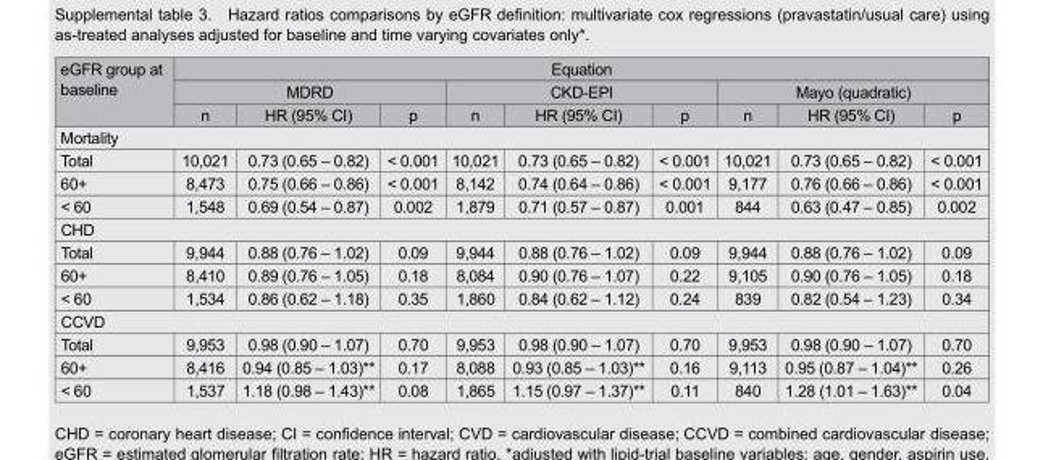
<table><thead><tr><td rowspan="3">eGFR group at baseline</td><td colspan="9">Equation</td></tr><tr><td colspan="3">MDRD</td><td colspan="3">CKD-EPI</td><td colspan="3">Mayo (quadratic)</td></tr><tr><td>n</td><td>HR (95% CI)</td><td>p</td><td>n</td><td>HR (95% CI)</td><td>p</td><td>n</td><td>HR (95% CI)</td><td>p</td></tr></thead><tbody><tr><td colspan="10">Mortality</td></tr><tr><td>Total</td><td>10,021</td><td>0.73 (0.65 – 0.82)</td><td>&lt; 0.001</td><td>10,021</td><td>0.73 (0.65 – 0.82)</td><td>&lt; 0.001</td><td>10,021</td><td>0.73 (0.65 – 0.82)</td><td>&lt; 0.001</td></tr><tr><td>60+</td><td>8,473</td><td>0.75 (0.66 – 0.86)</td><td>&lt; 0.001</td><td>8,142</td><td>0.74 (0.64 – 0.86)</td><td>&lt; 0.001</td><td>9,177</td><td>0.76 (0.66 – 0.86)</td><td>&lt; 0.001</td></tr><tr><td>&lt; 60</td><td>1,548</td><td>0.69 (0.54 – 0.87)</td><td>0.002</td><td>1,879</td><td>0.71 (0.57 – 0.87)</td><td>0.001</td><td>844</td><td>0.63 (0.47 – 0.85)</td><td>0.002</td></tr><tr><td colspan="10">CHD</td></tr><tr><td>Total</td><td>9,944</td><td>0.88 (0.76 – 1.02)</td><td>0.09</td><td>9,944</td><td>0.88 (0.76 – 1.02)</td><td>0.09</td><td>9,944</td><td>0.88 (0.76 – 1.02)</td><td>0.09</td></tr><tr><td>60+</td><td>8,410</td><td>0.89 (0.76 – 1.05)</td><td>0.18</td><td>8,084</td><td>0.90 (0.76 – 1.07)</td><td>0.22</td><td>9,105</td><td>0.90 (0.76 – 1.05)</td><td>0.18</td></tr><tr><td>&lt; 60</td><td>1,534</td><td>0.86 (0.62 – 1.18)</td><td>0.35</td><td>1,860</td><td>0.84 (0.62 – 1.12)</td><td>0.24</td><td>839</td><td>0.82 (0.54 – 1.23)</td><td>0.34</td></tr><tr><td colspan="10">CCVD</td></tr><tr><td>Total</td><td>9,953</td><td>0.98 (0.90 – 1.07)</td><td>0.70</td><td>9,953</td><td>0.98 (0.90 – 1.07)</td><td>0.70</td><td>9,953</td><td>0.98 (0.90 – 1.07)</td><td>0.70</td></tr><tr><td>60+</td><td>8,416</td><td>0.94 (0.85 – 1.03)**</td><td>0.17</td><td>8,088</td><td>0.93 (0.85 – 1.03)**</td><td>0.16</td><td>9,113</td><td>0.95 (0.87 – 1.04)**</td><td>0.26</td></tr><tr><td>&lt; 60</td><td>1,537</td><td>1.18 (0.98 – 1.43)**</td><td>0.08</td><td>1,865</td><td>1.15 (0.97 – 1.37)**</td><td>0.11</td><td>840</td><td>1.28 (1.01 – 1.63)**</td><td>0.04</td></tr></tbody></table>